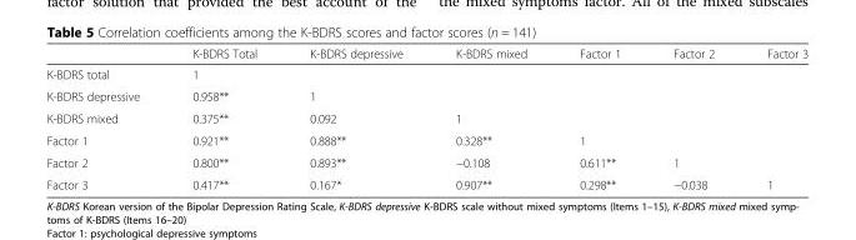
<table><thead><tr><td></td><td>K-BDRS Total</td><td>K-BDRS depressive</td><td>K-BDRS mixed</td><td>Factor 1</td><td>Factor 2</td><td>Factor 3</td></tr></thead><tbody><tr><td>K-BDRS total</td><td>1</td><td></td><td></td><td></td><td></td><td></td></tr><tr><td>K-BDRS depressive</td><td>0.958**</td><td>1</td><td></td><td></td><td></td><td></td></tr><tr><td>K-BDRS mixed</td><td>0.375**</td><td>0.092</td><td>1</td><td></td><td></td><td></td></tr><tr><td>Factor 1</td><td>0.921**</td><td>0.888**</td><td>0.328**</td><td>1</td><td></td><td></td></tr><tr><td>Factor 2</td><td>0.800**</td><td>0.893**</td><td>−0.108</td><td>0.611**</td><td>1</td><td></td></tr><tr><td>Factor 3</td><td>0.417**</td><td>0.167*</td><td>0.907**</td><td>0.298**</td><td>−0.038</td><td>1</td></tr></tbody></table>